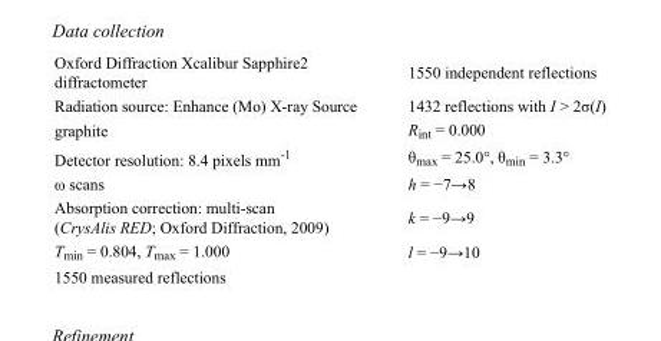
<table><tbody><tr><td>Oxford Diffraction Xcalibur Sapphire2 diffractometer</td><td>1550 independent reflections</td></tr><tr><td>Radiation source: Enhance (Mo) X-ray Source</td><td>1432 reflections with I &gt; 2σ(I)</td></tr><tr><td>graphite</td><td>R<sub>int</sub> = 0.000</td></tr><tr><td>Detector resolution: 8.4 pixels mm<sup>-1</sup></td><td>θ<sub>max</sub> = 25.0°, θ<sub>min</sub> = 3.3°</td></tr><tr><td>ω scans</td><td>h = −7→8</td></tr><tr><td>Absorption correction: multi-scan (CrysAlis RED; Oxford Diffraction, 2009)</td><td>k = −9→9</td></tr><tr><td>T<sub>min</sub> = 0.804, T<sub>max</sub> = 1.000</td><td>l = −9→10</td></tr><tr><td>1550 measured reflections</td><td></td></tr></tbody></table>